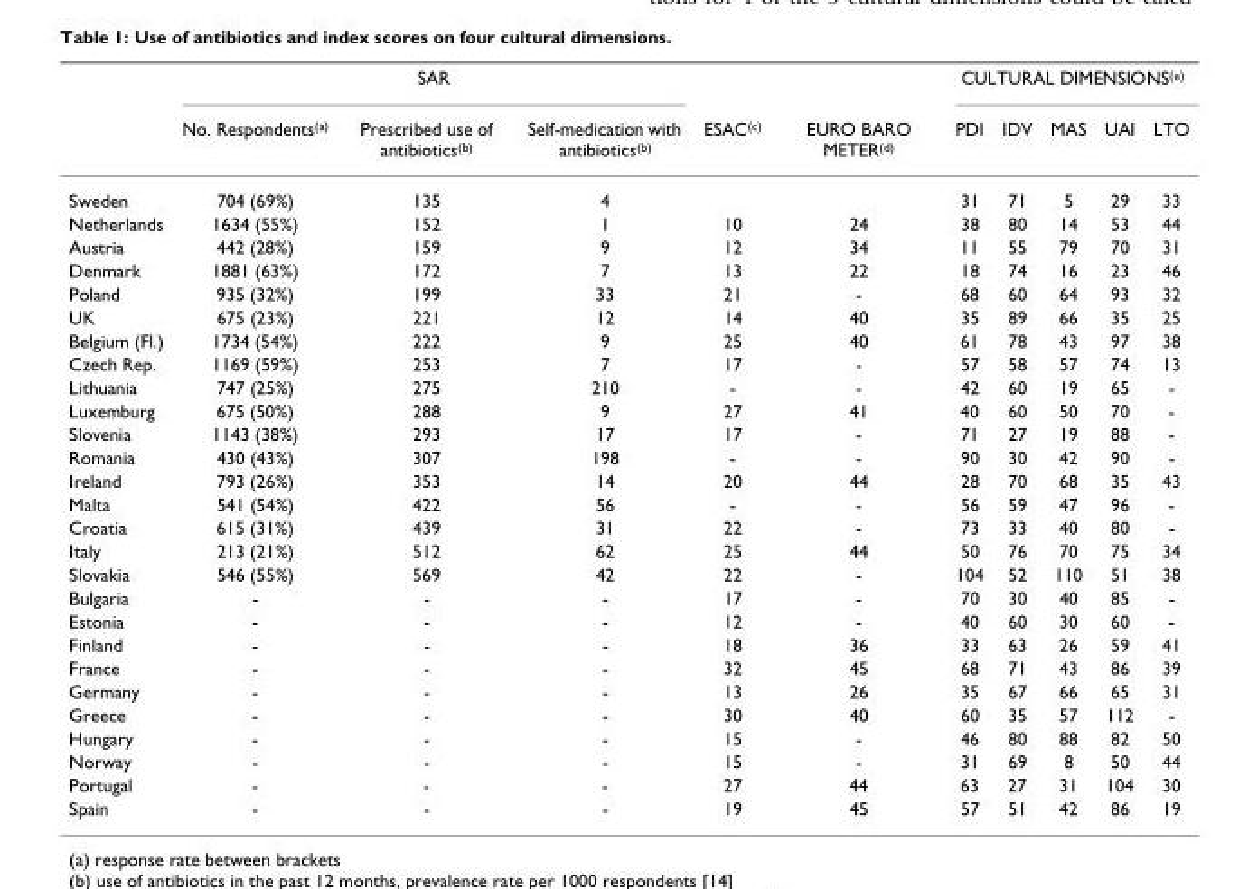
<table><thead><tr><td rowspan="2"></td><td colspan="3">SAR</td><td rowspan="2">ESAC<sup>(c)</sup></td><td rowspan="2">EURO BARO METER<sup>(d)</sup></td><td colspan="5">CULTURAL DIMENSIONS<sup>(e)</sup></td></tr><tr><td>No. Respondents<sup>(a)</sup></td><td>Prescribed use of antibiotics<sup>(b)</sup></td><td>Self-medication with antibiotics<sup>(b)</sup></td><td>PDI</td><td>IDV</td><td>MAS</td><td>UAI</td><td>LTO</td></tr></thead><tbody><tr><td>Sweden</td><td>704 (69%)</td><td>135</td><td>4</td><td></td><td></td><td>31</td><td>71</td><td>5</td><td>29</td><td>33</td></tr><tr><td>Netherlands</td><td>1634 (55%)</td><td>152</td><td>1</td><td>10</td><td>24</td><td>38</td><td>80</td><td>14</td><td>53</td><td>44</td></tr><tr><td>Austria</td><td>442 (28%)</td><td>159</td><td>9</td><td>12</td><td>34</td><td>11</td><td>55</td><td>79</td><td>70</td><td>31</td></tr><tr><td>Denmark</td><td>1881 (63%)</td><td>172</td><td>7</td><td>13</td><td>22</td><td>18</td><td>74</td><td>16</td><td>23</td><td>46</td></tr><tr><td>Poland</td><td>935 (32%)</td><td>199</td><td>33</td><td>21</td><td>-</td><td>68</td><td>60</td><td>64</td><td>93</td><td>32</td></tr><tr><td>UK</td><td>675 (23%)</td><td>221</td><td>12</td><td>14</td><td>40</td><td>35</td><td>89</td><td>66</td><td>35</td><td>25</td></tr><tr><td>Belgium (Fl.)</td><td>1734 (54%)</td><td>222</td><td>9</td><td>25</td><td>40</td><td>61</td><td>78</td><td>43</td><td>97</td><td>38</td></tr><tr><td>Czech Rep.</td><td>1169 (59%)</td><td>253</td><td>7</td><td>17</td><td>-</td><td>57</td><td>58</td><td>57</td><td>74</td><td>13</td></tr><tr><td>Lithuania</td><td>747 (25%)</td><td>275</td><td>210</td><td>-</td><td>-</td><td>42</td><td>60</td><td>19</td><td>65</td><td>-</td></tr><tr><td>Luxemburg</td><td>675 (50%)</td><td>288</td><td>9</td><td>27</td><td>41</td><td>40</td><td>60</td><td>50</td><td>70</td><td>-</td></tr><tr><td>Slovenia</td><td>1143 (38%)</td><td>293</td><td>17</td><td>17</td><td>-</td><td>71</td><td>27</td><td>19</td><td>88</td><td>-</td></tr><tr><td>Romania</td><td>430 (43%)</td><td>307</td><td>198</td><td>-</td><td>-</td><td>90</td><td>30</td><td>42</td><td>90</td><td>-</td></tr><tr><td>Ireland</td><td>793 (26%)</td><td>353</td><td>14</td><td>20</td><td>44</td><td>28</td><td>70</td><td>68</td><td>35</td><td>43</td></tr><tr><td>Malta</td><td>541 (54%)</td><td>422</td><td>56</td><td>-</td><td>-</td><td>56</td><td>59</td><td>47</td><td>96</td><td>-</td></tr><tr><td>Croatia</td><td>615 (31%)</td><td>439</td><td>31</td><td>22</td><td>-</td><td>73</td><td>33</td><td>40</td><td>80</td><td>-</td></tr><tr><td>Italy</td><td>213 (21%)</td><td>512</td><td>62</td><td>25</td><td>44</td><td>50</td><td>76</td><td>70</td><td>75</td><td>34</td></tr><tr><td>Slovakia</td><td>546 (55%)</td><td>569</td><td>42</td><td>22</td><td>-</td><td>104</td><td>52</td><td>110</td><td>51</td><td>38</td></tr><tr><td>Bulgaria</td><td>-</td><td>-</td><td>-</td><td>17</td><td>-</td><td>70</td><td>30</td><td>40</td><td>85</td><td>-</td></tr><tr><td>Estonia</td><td>-</td><td>-</td><td>-</td><td>12</td><td>-</td><td>40</td><td>60</td><td>30</td><td>60</td><td>-</td></tr><tr><td>Finland</td><td>-</td><td>-</td><td>-</td><td>18</td><td>36</td><td>33</td><td>63</td><td>26</td><td>59</td><td>41</td></tr><tr><td>France</td><td>-</td><td>-</td><td>-</td><td>32</td><td>45</td><td>68</td><td>71</td><td>43</td><td>86</td><td>39</td></tr><tr><td>Germany</td><td>-</td><td>-</td><td>-</td><td>13</td><td>26</td><td>35</td><td>67</td><td>66</td><td>65</td><td>31</td></tr><tr><td>Greece</td><td>-</td><td>-</td><td>-</td><td>30</td><td>40</td><td>60</td><td>35</td><td>57</td><td>112</td><td>-</td></tr><tr><td>Hungary</td><td>-</td><td>-</td><td>-</td><td>15</td><td>-</td><td>46</td><td>80</td><td>88</td><td>82</td><td>50</td></tr><tr><td>Norway</td><td>-</td><td>-</td><td>-</td><td>15</td><td>-</td><td>31</td><td>69</td><td>8</td><td>50</td><td>44</td></tr><tr><td>Portugal</td><td>-</td><td>-</td><td>-</td><td>27</td><td>44</td><td>63</td><td>27</td><td>31</td><td>104</td><td>30</td></tr><tr><td>Spain</td><td>-</td><td>-</td><td>-</td><td>19</td><td>45</td><td>57</td><td>51</td><td>42</td><td>86</td><td>19</td></tr></tbody></table>